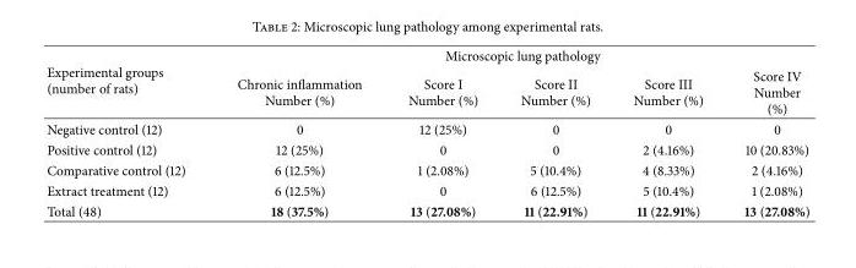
<table><thead><tr><td rowspan="2">Experimental groups (number of rats)</td><td colspan="5">Microscopic lung pathology</td></tr><tr><td>Chronic inflammation Number (%)</td><td>Score I Number (%)</td><td>Score II Number (%)</td><td>Score III Number (%)</td><td>Score IV Number (%)</td></tr></thead><tbody><tr><td>Negative control (12)</td><td>0</td><td>12 (25%)</td><td>0</td><td>0</td><td>0</td></tr><tr><td>Positive control (12)</td><td>12 (25%)</td><td>0</td><td>0</td><td>2 (4.16%)</td><td>10 (20.83%)</td></tr><tr><td>Comparative control (12)</td><td>6 (12.5%)</td><td>1 (2.08%)</td><td>5 (10.4%)</td><td>4 (8.33%)</td><td>2 (4.16%)</td></tr><tr><td>Extract treatment (12)</td><td>6 (12.5%)</td><td>0</td><td>6 (12.5%)</td><td>5 (10.4%)</td><td>1 (2.08%)</td></tr><tr><td>Total (48)</td><td>18 (37.5%)</td><td>13 (27.08%)</td><td>11 (22.91%)</td><td>11 (22.91%)</td><td>13 (27.08%)</td></tr></tbody></table>